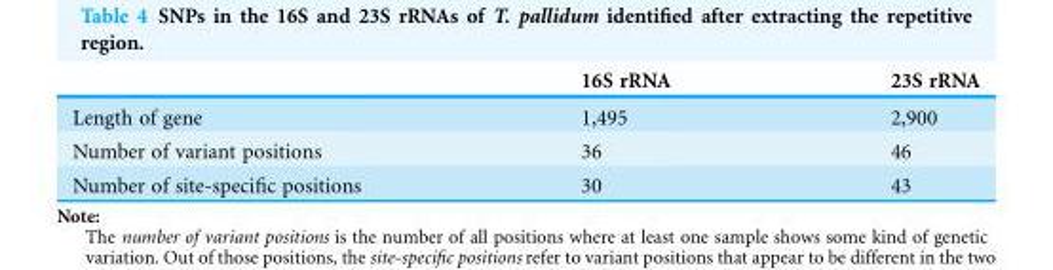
<table><thead><tr><td></td><td>16S rRNA</td><td>23S rRNA</td></tr></thead><tbody><tr><td>Length of gene</td><td>1,495</td><td>2,900</td></tr><tr><td>Number of variant positions</td><td>36</td><td>46</td></tr><tr><td>Number of site-specific positions</td><td>30</td><td>43</td></tr></tbody></table>